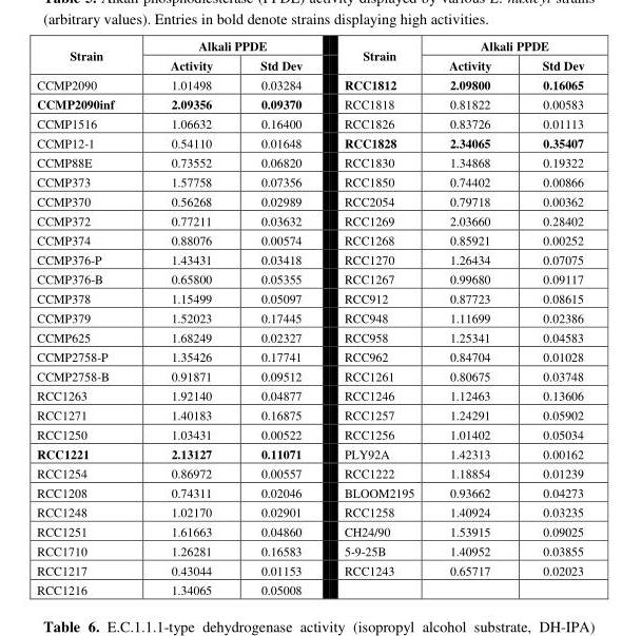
<table><thead><tr><td rowspan="2">Strain</td><td colspan="2">Alkali PPDE</td><td rowspan="2">Strain</td><td colspan="2">Alkali PPDE</td></tr><tr><td>Activity</td><td>Std Dev</td><td>Activity</td><td>Std Dev</td></tr></thead><tbody><tr><td>CCMP2090</td><td>1.01498</td><td>0.03284</td><td>RCC1812</td><td>2.09800</td><td>0.16065</td></tr><tr><td>CCMP2090inf</td><td>2.09356</td><td>0.09370</td><td>RCC1818</td><td>0.81822</td><td>0.00583</td></tr><tr><td>CCMP1516</td><td>1.06632</td><td>0.16400</td><td>RCC1826</td><td>0.83726</td><td>0.01113</td></tr><tr><td>CCMP12-1</td><td>0.54110</td><td>0.01648</td><td>RCC1828</td><td>2.34065</td><td>0.35407</td></tr><tr><td>CCMP88E</td><td>0.73552</td><td>0.06820</td><td>RCC1830</td><td>1.34868</td><td>0.19322</td></tr><tr><td>CCMP373</td><td>1.57758</td><td>0.07356</td><td>RCC1850</td><td>0.74402</td><td>0.00866</td></tr><tr><td>CCMP370</td><td>0.56268</td><td>0.02989</td><td>RCC2054</td><td>0.79718</td><td>0.00362</td></tr><tr><td>CCMP372</td><td>0.77211</td><td>0.03632</td><td>RCC1269</td><td>2.03660</td><td>0.28402</td></tr><tr><td>CCMP374</td><td>0.88076</td><td>0.00574</td><td>RCC1268</td><td>0.85921</td><td>0.00252</td></tr><tr><td>CCMP376-P</td><td>1.43431</td><td>0.03418</td><td>RCC1270</td><td>1.26434</td><td>0.07075</td></tr><tr><td>CCMP376-B</td><td>0.65800</td><td>0.05355</td><td>RCC1267</td><td>0.99680</td><td>0.09117</td></tr><tr><td>CCMP378</td><td>1.15499</td><td>0.05097</td><td>RCC912</td><td>0.87723</td><td>0.08615</td></tr><tr><td>CCMP379</td><td>1.52023</td><td>0.17445</td><td>RCC948</td><td>1.11699</td><td>0.02386</td></tr><tr><td>CCMP625</td><td>1.68249</td><td>0.02327</td><td>RCC958</td><td>1.25341</td><td>0.04583</td></tr><tr><td>CCMP2758-P</td><td>1.35426</td><td>0.17741</td><td>RCC962</td><td>0.84704</td><td>0.01028</td></tr><tr><td>CCMP2758-B</td><td>0.91871</td><td>0.09512</td><td>RCC1261</td><td>0.80675</td><td>0.03748</td></tr><tr><td>RCC1263</td><td>1.92140</td><td>0.04877</td><td>RCC1246</td><td>1.12463</td><td>0.13606</td></tr><tr><td>RCC1271</td><td>1.40183</td><td>0.16875</td><td>RCC1257</td><td>1.24291</td><td>0.05902</td></tr><tr><td>RCC1250</td><td>1.03431</td><td>0.00522</td><td>RCC1256</td><td>1.01402</td><td>0.05034</td></tr><tr><td>RCC1221</td><td>2.13127</td><td>0.11071</td><td>PLY92A</td><td>1.42313</td><td>0.00162</td></tr><tr><td>RCC1254</td><td>0.86972</td><td>0.00557</td><td>RCC1222</td><td>1.18854</td><td>0.01239</td></tr><tr><td>RCC1208</td><td>0.74311</td><td>0.02046</td><td>BLOOM2195</td><td>0.93662</td><td>0.04273</td></tr><tr><td>RCC1248</td><td>1.02170</td><td>0.02901</td><td>RCC1258</td><td>1.40924</td><td>0.03235</td></tr><tr><td>RCC1251</td><td>1.61663</td><td>0.04860</td><td>CH24/90</td><td>1.53915</td><td>0.09025</td></tr><tr><td>RCC1710</td><td>1.26281</td><td>0.16583</td><td>5-9-25B</td><td>1.40952</td><td>0.03855</td></tr><tr><td>RCC1217</td><td>0.43044</td><td>0.01153</td><td>RCC1243</td><td>0.65717</td><td>0.02023</td></tr><tr><td>RCC1216</td><td>1.34065</td><td>0.05008</td><td></td><td></td><td></td></tr></tbody></table>